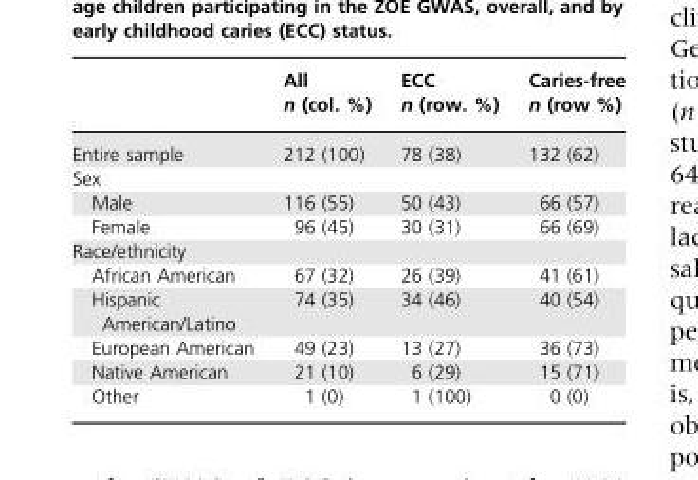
<table><thead><tr><td rowspan="2"></td><td rowspan="2">All n (col. %)</td><td rowspan="2">ECC n (row. %)</td><td rowspan="2">Caries-free n (row %)</td></tr><tr></tr></thead><tbody><tr><td>Entire sample</td><td>212 (100)</td><td>78 (38)</td><td>132 (62)</td></tr><tr><td colspan="4">Sex</td></tr><tr><td>Male</td><td>116 (55)</td><td>50 (43)</td><td>66 (57)</td></tr><tr><td>Female</td><td>96 (45)</td><td>30 (31)</td><td>66 (69)</td></tr><tr><td colspan="4">Race/ethnicity</td></tr><tr><td>African American</td><td>67 (32)</td><td>26 (39)</td><td>41 (61)</td></tr><tr><td>Hispanic American/Latino</td><td>74 (35)</td><td>34 (46)</td><td>40 (54)</td></tr><tr><td>European American</td><td>49 (23)</td><td>13 (27)</td><td>36 (73)</td></tr><tr><td>Native American</td><td>21 (10)</td><td>6 (29)</td><td>15 (71)</td></tr><tr><td>Other</td><td>1 (0)</td><td>1 (100)</td><td>0 (0)</td></tr></tbody></table>